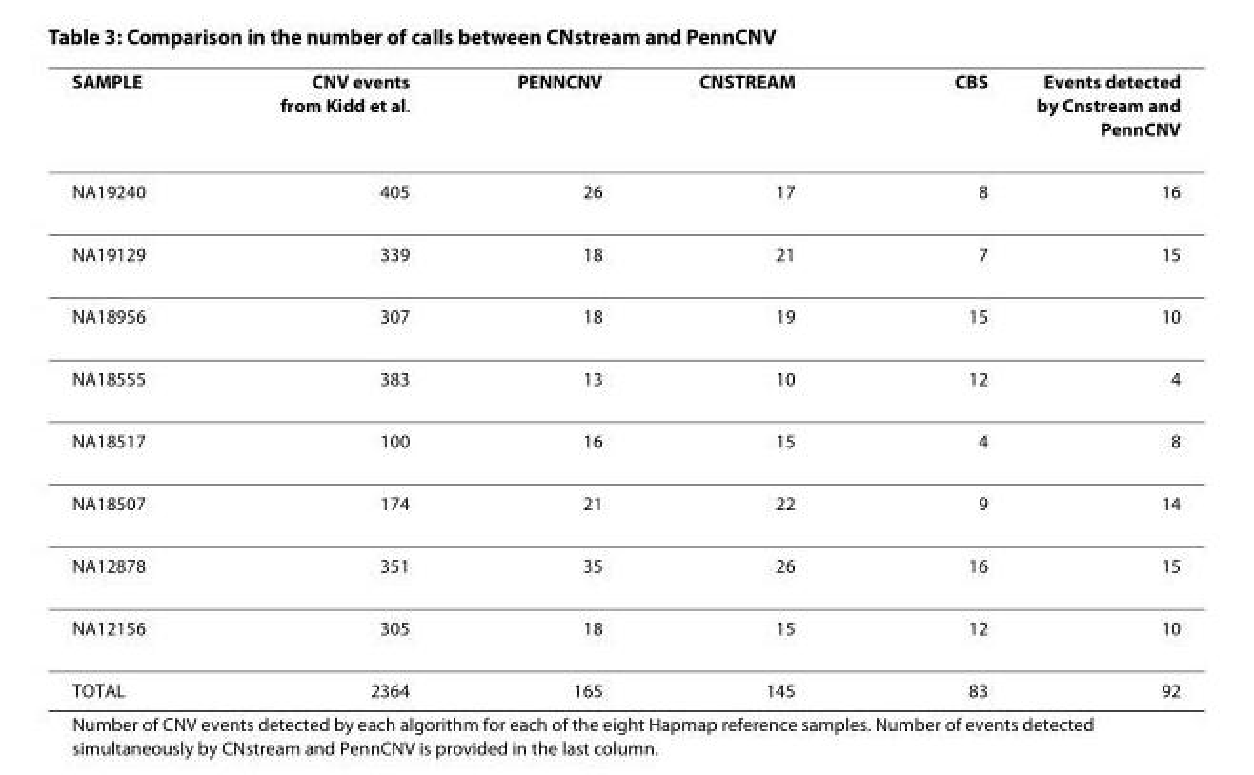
<table><thead><tr><td>SAMPLE</td><td>CNV events from Kidd et al.</td><td>PENNCNV</td><td>CNSTREAM</td><td>CBS</td><td>Events detected by Cnstream and PennCNV</td></tr></thead><tbody><tr><td>NA19240</td><td>405</td><td>26</td><td>17</td><td>8</td><td>16</td></tr><tr><td>NA19129</td><td>339</td><td>18</td><td>21</td><td>7</td><td>15</td></tr><tr><td>NA18956</td><td>307</td><td>18</td><td>19</td><td>15</td><td>10</td></tr><tr><td>NA18555</td><td>383</td><td>13</td><td>10</td><td>12</td><td>4</td></tr><tr><td>NA18517</td><td>100</td><td>16</td><td>15</td><td>4</td><td>8</td></tr><tr><td>NA18507</td><td>174</td><td>21</td><td>22</td><td>9</td><td>14</td></tr><tr><td>NA12878</td><td>351</td><td>35</td><td>26</td><td>16</td><td>15</td></tr><tr><td>NA12156</td><td>305</td><td>18</td><td>15</td><td>12</td><td>10</td></tr><tr><td>TOTAL</td><td>2364</td><td>165</td><td>145</td><td>83</td><td>92</td></tr></tbody></table>